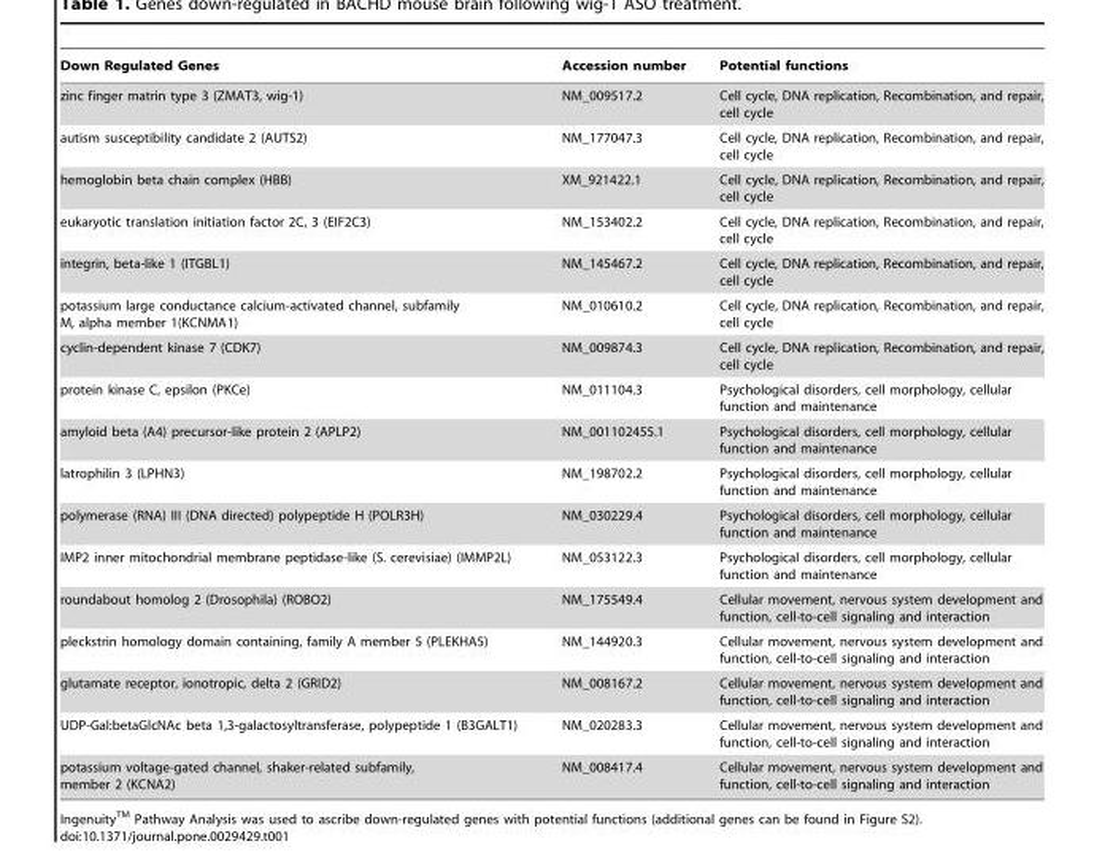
<table><thead><tr><td>Down Regulated Genes</td><td>Accession number</td><td>Potential functions</td></tr></thead><tbody><tr><td>zinc finger matrin type 3 (ZMAT3, wig-1)</td><td>NM_009517.2</td><td>Cell cycle, DNA replication, Recombination, and repair, cell cycle</td></tr><tr><td>autism susceptibility candidate 2 (AUTS2)</td><td>NM_177047.3</td><td>Cell cycle, DNA replication, Recombination, and repair, cell cycle</td></tr><tr><td>hemoglobin beta chain complex (HBB)</td><td>XM_921422.1</td><td>Cell cycle, DNA replication, Recombination, and repair, cell cycle</td></tr><tr><td>eukaryotic translation initiation factor 2C, 3 (EIF2C3)</td><td>NM_153402.2</td><td>Cell cycle, DNA replication, Recombination, and repair, cell cycle</td></tr><tr><td>integrin, beta-like 1 (ITGBL1)</td><td>NM_145467.2</td><td>Cell cycle, DNA replication, Recombination, and repair, cell cycle</td></tr><tr><td>potassium large conductance calcium-activated channel, subfamily M, alpha member 1(KCNMA1)</td><td>NM_010610.2</td><td>Cell cycle, DNA replication, Recombination, and repair, cell cycle</td></tr><tr><td>cyclin-dependent kinase 7 (CDK7)</td><td>NM_009874.3</td><td>Cell cycle, DNA replication, Recombination, and repair, cell cycle</td></tr><tr><td>protein kinase C, epsilon (PKCe)</td><td>NM_011104.3</td><td>Psychological disorders, cell morphology, cellular function and maintenance</td></tr><tr><td>amyloid beta (A4) precursor-like protein 2 (APLP2)</td><td>NM_001102455.1</td><td>Psychological disorders, cell morphology, cellular function and maintenance</td></tr><tr><td>latrophilin 3 (LPHN3)</td><td>NM_198702.2</td><td>Psychological disorders, cell morphology, cellular function and maintenance</td></tr><tr><td>polymerase (RNA) III (DNA directed) polypeptide H (POLR3H)</td><td>NM_030229.4</td><td>Psychological disorders, cell morphology, cellular function and maintenance</td></tr><tr><td>IMP2 inner mitochondrial membrane peptidase-like (S. cerevisiae) (IMMP2L)</td><td>NM_053122.3</td><td>Psychological disorders, cell morphology, cellular function and maintenance</td></tr><tr><td>roundabout homolog 2 (Drosophila) (ROBO2)</td><td>NM_175549.4</td><td>Cellular movement, nervous system development and function, cell-to-cell signaling and interaction</td></tr><tr><td>pleckstrin homology domain containing, family A member 5 (PLEKHA5)</td><td>NM_144920.3</td><td>Cellular movement, nervous system development and function, cell-to-cell signaling and interaction</td></tr><tr><td>glutamate receptor, ionotropic, delta 2 (GRID2)</td><td>NM_008167.2</td><td>Cellular movement, nervous system development and function, cell-to-cell signaling and interaction</td></tr><tr><td>UDP-Gal:betaGlcNAc beta 1,3-galactosyltransferase, polypeptide 1 (B3GALT1)</td><td>NM_020283.3</td><td>Cellular movement, nervous system development and function, cell-to-cell signaling and interaction</td></tr><tr><td>potassium voltage-gated channel, shaker-related subfamily, member 2 (KCNA2)</td><td>NM_008417.4</td><td>Cellular movement, nervous system development and function, cell-to-cell signaling and interaction</td></tr></tbody></table>